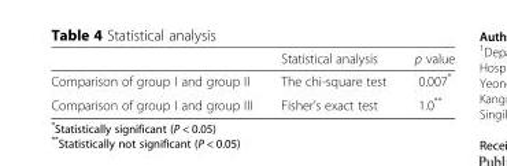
<table><thead><tr><td></td><td>Statistical analysis</td><td>p value</td></tr></thead><tbody><tr><td>Comparison of group I and group II</td><td>The chi-square test</td><td>0.007*</td></tr><tr><td>Comparison of group I and group III</td><td>Fisher’s exact test</td><td>1.0**</td></tr></tbody></table>